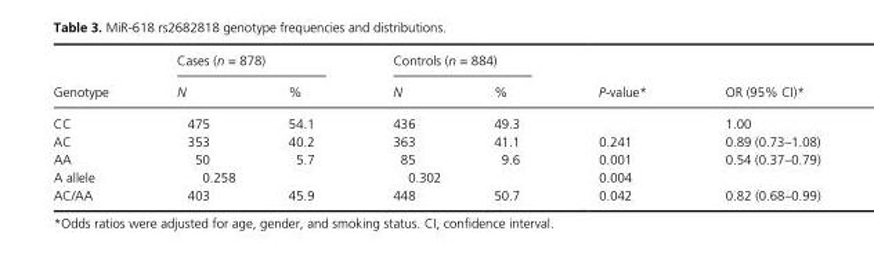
<table><thead><tr><td rowspan="2">Genotype</td><td colspan="2">Cases (n = 878)</td><td colspan="2">Controls (n = 884)</td><td rowspan="2">P-value*</td><td rowspan="2">OR (95% CI)*</td></tr><tr><td>N</td><td>%</td><td>N</td><td>%</td></tr></thead><tbody><tr><td>CC</td><td>475</td><td>54.1</td><td>436</td><td>49.3</td><td></td><td>1.00</td></tr><tr><td>AC</td><td>353</td><td>40.2</td><td>363</td><td>41.1</td><td>0.241</td><td>0.89 (0.73–1.08)</td></tr><tr><td>AA</td><td>50</td><td>5.7</td><td>85</td><td>9.6</td><td>0.001</td><td>0.54 (0.37–0.79)</td></tr><tr><td>A allele</td><td colspan="2">0.258</td><td colspan="2">0.302</td><td>0.004</td><td></td></tr><tr><td>AC/AA</td><td>403</td><td>45.9</td><td>448</td><td>50.7</td><td>0.042</td><td>0.82 (0.68–0.99)</td></tr></tbody></table>